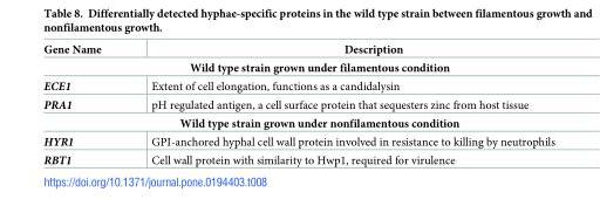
<table><thead><tr><td>Gene Name</td><td>Description</td></tr></thead><tbody><tr><td colspan="2">Wild type strain grown under filamentous condition</td></tr><tr><td>ECE1</td><td>Extent of cell elongation, functions as a candidalysin</td></tr><tr><td>PRA1</td><td>pH regulated antigen, a cell surface protein that sequesters zinc from host tissue</td></tr><tr><td colspan="2">Wild type strain grown under nonfilamentous condition</td></tr><tr><td>HYR1</td><td>GPI-anchored hyphal cell wall protein involved in resistance to killing by neutrophils</td></tr><tr><td>RBT1</td><td>Cell wall protein with similarity to Hwp1, required for virulence</td></tr></tbody></table>